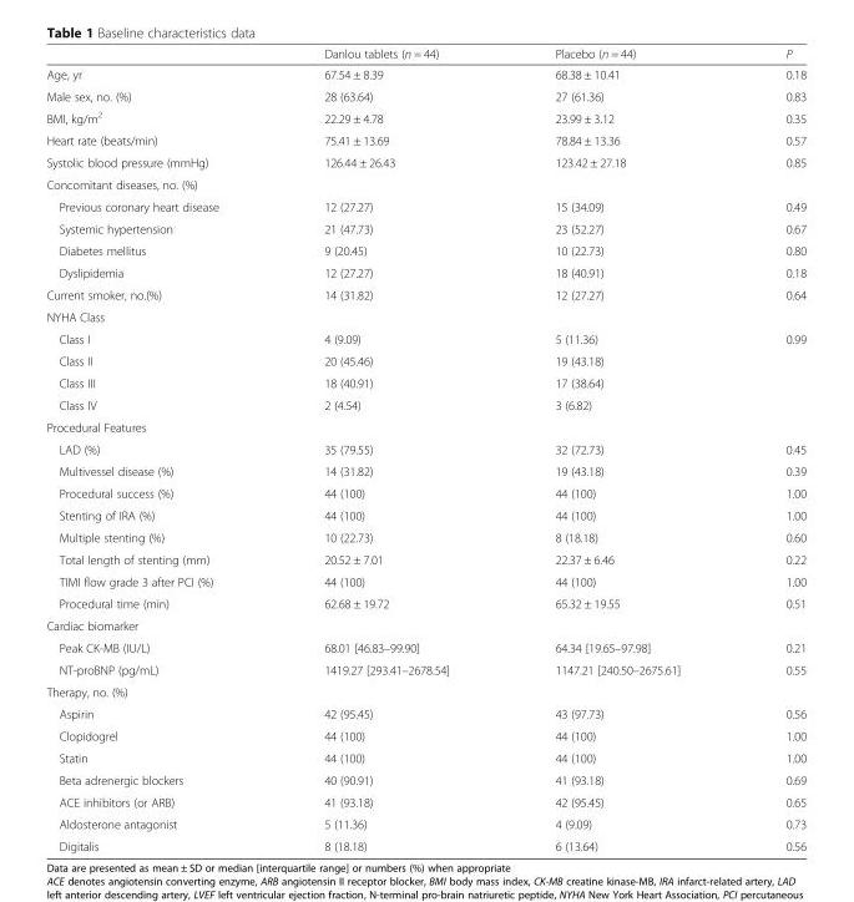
<table><thead><tr><td></td><td>Danlou tablets (n = 44)</td><td>Placebo (n = 44)</td><td>P</td></tr></thead><tbody><tr><td>Age, yr</td><td>67.54 ± 8.39</td><td>68.38 ± 10.41</td><td>0.18</td></tr><tr><td>Male sex, no. (%)</td><td>28 (63.64)</td><td>27 (61.36)</td><td>0.83</td></tr><tr><td>BMI, kg/m<sup>2</sup></td><td>22.29 ± 4.78</td><td>23.99 ± 3.12</td><td>0.35</td></tr><tr><td>Heart rate (beats/min)</td><td>75.41 ± 13.69</td><td>78.84 ± 13.36</td><td>0.57</td></tr><tr><td>Systolic blood pressure (mmHg)</td><td>126.44 ± 26.43</td><td>123.42 ± 27.18</td><td>0.85</td></tr><tr><td colspan="4">Concomitant diseases, no. (%)</td></tr><tr><td>Previous coronary heart disease</td><td>12 (27.27)</td><td>15 (34.09)</td><td>0.49</td></tr><tr><td>Systemic hypertension</td><td>21 (47.73)</td><td>23 (52.27)</td><td>0.67</td></tr><tr><td>Diabetes mellitus</td><td>9 (20.45)</td><td>10 (22.73)</td><td>0.80</td></tr><tr><td>Dyslipidemia</td><td>12 (27.27)</td><td>18 (40.91)</td><td>0.18</td></tr><tr><td>Current smoker, no.(%)</td><td>14 (31.82)</td><td>12 (27.27)</td><td>0.64</td></tr><tr><td colspan="4">NYHA Class</td></tr><tr><td>Class I</td><td>4 (9.09)</td><td>5 (11.36)</td><td rowspan="4">0.99</td></tr><tr><td>Class II</td><td>20 (45.46)</td><td>19 (43.18)</td></tr><tr><td>Class III</td><td>18 (40.91)</td><td>17 (38.64)</td></tr><tr><td>Class IV</td><td>2 (4.54)</td><td>3 (6.82)</td></tr><tr><td colspan="4">Procedural Features</td></tr><tr><td>LAD (%)</td><td>35 (79.55)</td><td>32 (72.73)</td><td>0.45</td></tr><tr><td>Multivessel disease (%)</td><td>14 (31.82)</td><td>19 (43.18)</td><td>0.39</td></tr><tr><td>Procedural success (%)</td><td>44 (100)</td><td>44 (100)</td><td>1.00</td></tr><tr><td>Stenting of IRA (%)</td><td>44 (100)</td><td>44 (100)</td><td>1.00</td></tr><tr><td>Multiple stenting (%)</td><td>10 (22.73)</td><td>8 (18.18)</td><td>0.60</td></tr><tr><td>Total length of stenting (mm)</td><td>20.52 ± 7.01</td><td>22.37 ± 6.46</td><td>0.22</td></tr><tr><td>TIMI flow grade 3 after PCI (%)</td><td>44 (100)</td><td>44 (100)</td><td>1.00</td></tr><tr><td>Procedural time (min)</td><td>62.68 ± 19.72</td><td>65.32 ± 19.55</td><td>0.51</td></tr><tr><td colspan="4">Cardiac biomarker</td></tr><tr><td>Peak CK-MB (IU/L)</td><td>68.01 [46.83–99.90]</td><td>64.34 [19.65–97.98]</td><td>0.21</td></tr><tr><td>NT-proBNP (pg/mL)</td><td>1419.27 [293.41–2678.54]</td><td>1147.21 [240.50–2675.61]</td><td>0.55</td></tr><tr><td colspan="4">Therapy, no. (%)</td></tr><tr><td>Aspirin</td><td>42 (95.45)</td><td>43 (97.73)</td><td>0.56</td></tr><tr><td>Clopidogrel</td><td>44 (100)</td><td>44 (100)</td><td>1.00</td></tr><tr><td>Statin</td><td>44 (100)</td><td>44 (100)</td><td>1.00</td></tr><tr><td>Beta adrenergic blockers</td><td>40 (90.91)</td><td>41 (93.18)</td><td>0.69</td></tr><tr><td>ACE inhibitors (or ARB)</td><td>41 (93.18)</td><td>42 (95.45)</td><td>0.65</td></tr><tr><td>Aldosterone antagonist</td><td>5 (11.36)</td><td>4 (9.09)</td><td>0.73</td></tr><tr><td>Digitalis</td><td>8 (18.18)</td><td>6 (13.64)</td><td>0.56</td></tr></tbody></table>